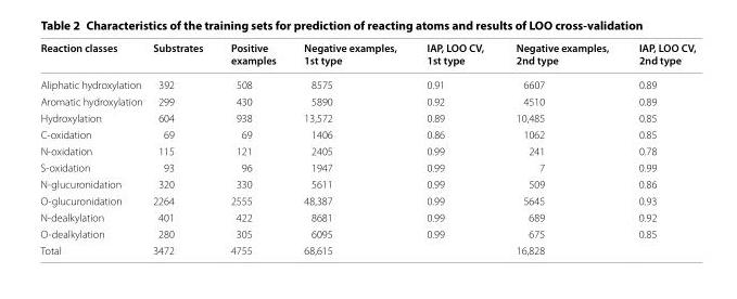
<table><thead><tr><td>Reaction classes</td><td>Substrates</td><td>Positive examples</td><td>Negative examples, 1st type</td><td>IAP, LOO CV, 1st type</td><td>Negative examples, 2nd type</td><td>IAP, LOO CV, 2nd type</td></tr></thead><tbody><tr><td>Aliphatic hydroxylation</td><td>392</td><td>508</td><td>8575</td><td>0.91</td><td>6607</td><td>0.89</td></tr><tr><td>Aromatic hydroxylation</td><td>299</td><td>430</td><td>5890</td><td>0.92</td><td>4510</td><td>0.89</td></tr><tr><td>Hydroxylation</td><td>604</td><td>938</td><td>13,572</td><td>0.89</td><td>10,485</td><td>0.85</td></tr><tr><td>C-oxidation</td><td>69</td><td>69</td><td>1406</td><td>0.86</td><td>1062</td><td>0.85</td></tr><tr><td>N-oxidation</td><td>115</td><td>121</td><td>2405</td><td>0.99</td><td>241</td><td>0.78</td></tr><tr><td>S-oxidation</td><td>93</td><td>96</td><td>1947</td><td>0.99</td><td>7</td><td>0.99</td></tr><tr><td>N-glucuronidation</td><td>320</td><td>330</td><td>5611</td><td>0.99</td><td>509</td><td>0.86</td></tr><tr><td>O-glucuronidation</td><td>2264</td><td>2555</td><td>48,387</td><td>0.99</td><td>5645</td><td>0.93</td></tr><tr><td>N-dealkylation</td><td>401</td><td>422</td><td>8681</td><td>0.99</td><td>689</td><td>0.92</td></tr><tr><td>O-dealkylation</td><td>280</td><td>305</td><td>6095</td><td>0.99</td><td>675</td><td>0.85</td></tr><tr><td>Total</td><td>3472</td><td>4755</td><td>68,615</td><td></td><td>16,828</td><td></td></tr></tbody></table>